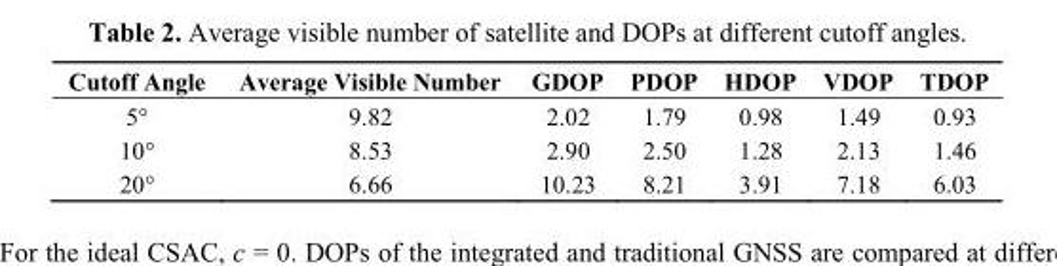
<table><thead><tr><td>Cutoff Angle</td><td>Average Visible Number</td><td>GDOP</td><td>PDOP</td><td>HDOP</td><td>VDOP</td><td>TDOP</td></tr></thead><tbody><tr><td>5°</td><td>9.82</td><td>2.02</td><td>1.79</td><td>0.98</td><td>1.49</td><td>0.93</td></tr><tr><td>10°</td><td>8.53</td><td>2.90</td><td>2.50</td><td>1.28</td><td>2.13</td><td>1.46</td></tr><tr><td>20°</td><td>6.66</td><td>10.23</td><td>8.21</td><td>3.91</td><td>7.18</td><td>6.03</td></tr></tbody></table>